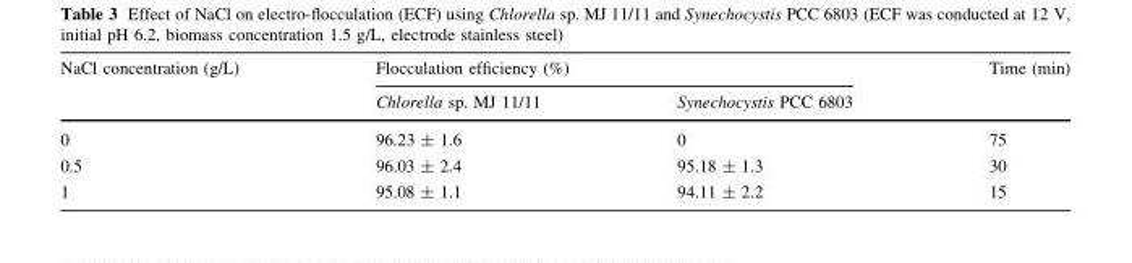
<table><thead><tr><td rowspan="2">NaCl concentration (g/L)</td><td colspan="2">Flocculation efficiency (%)</td><td rowspan="2">Time (min)</td></tr><tr><td>Chlorella sp. MJ 11/11</td><td>Synechocystis PCC 6803</td></tr></thead><tbody><tr><td>0</td><td>96.23 ± 1.6</td><td>0</td><td>75</td></tr><tr><td>0.5</td><td>96.03 ± 2.4</td><td>95.18 ± 1.3</td><td>30</td></tr><tr><td>1</td><td>95.08 ± 1.1</td><td>94.11 ± 2.2</td><td>15</td></tr></tbody></table>